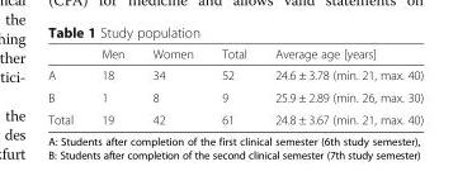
<table><thead><tr><td></td><td>Men</td><td>Women</td><td>Total</td><td>Average age [years]</td></tr></thead><tbody><tr><td>A</td><td>18</td><td>34</td><td>52</td><td>24.6 ± 3.78 (min. 21, max. 40)</td></tr><tr><td>B</td><td>1</td><td>8</td><td>9</td><td>25.9 ± 2.89 (min. 26, max. 30)</td></tr><tr><td>Total</td><td>19</td><td>42</td><td>61</td><td>24.8 ± 3.67 (min. 21, max. 40)</td></tr></tbody></table>